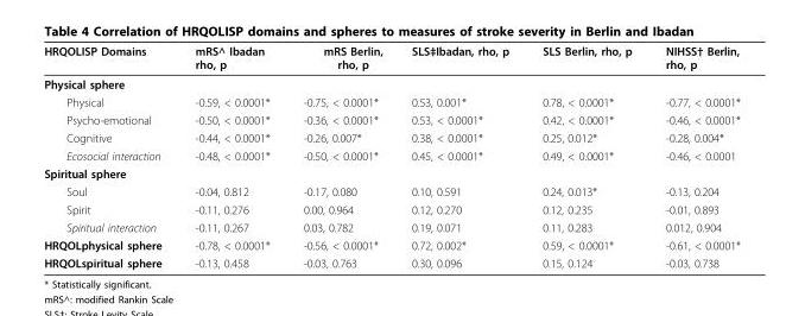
<table><thead><tr><td>HRQOLISP Domains</td><td>mRS^ Ibadan rho, p</td><td>mRS Berlin, rho, p</td><td>SLS‡Ibadan, rho, p</td><td>SLS Berlin, rho, p</td><td>NIHSS† Berlin, rho, p</td></tr></thead><tbody><tr><td colspan="6">Physical sphere</td></tr><tr><td>Physical</td><td>-0.59, &lt; 0.0001*</td><td>-0.75, &lt; 0.0001*</td><td>0.53, 0.001*</td><td>0.78, &lt; 0.0001*</td><td>-0.77, &lt; 0.0001*</td></tr><tr><td>Psycho-emotional</td><td>-0.50, &lt; 0.0001*</td><td>-0.36, &lt; 0.0001*</td><td>0.53, &lt; 0.0001*</td><td>0.42, &lt; 0.0001*</td><td>-0.46, &lt; 0.0001*</td></tr><tr><td>Cognitive</td><td>-0.44, &lt; 0.0001*</td><td>-0.26, 0.007*</td><td>0.38, &lt; 0.0001*</td><td>0.25, 0.012*</td><td>-0.28, 0.004*</td></tr><tr><td>Ecosocial interaction</td><td>-0.48, &lt; 0.0001*</td><td>-0.50, &lt; 0.0001*</td><td>0.45, &lt; 0.0001*</td><td>0.49, &lt; 0.0001*</td><td>-0.46, &lt; 0.0001</td></tr><tr><td colspan="6">Spiritual sphere</td></tr><tr><td>Soul</td><td>-0.04, 0.812</td><td>-0.17, 0.080</td><td>0.10, 0.591</td><td>0.24, 0.013*</td><td>-0.13, 0.204</td></tr><tr><td>Spirit</td><td>-0.11, 0.276</td><td>0.00, 0.964</td><td>0.12, 0.270</td><td>0.12, 0.235</td><td>-0.01, 0.893</td></tr><tr><td>Spiritual interaction</td><td>-0.11, 0.267</td><td>0.03, 0.782</td><td>0.19, 0.071</td><td>0.11, 0.283</td><td>0.012, 0.904</td></tr><tr><td>HRQOLphysical sphere</td><td>-0.78, &lt; 0.0001*</td><td>-0.56, &lt; 0.0001*</td><td>0.72, 0.002*</td><td>0.59, &lt; 0.0001*</td><td>-0.61, &lt; 0.0001*</td></tr><tr><td>HRQOLspiritual sphere</td><td>-0.13, 0.458</td><td>-0.03, 0.763</td><td>0.30, 0.096</td><td>0.15, 0.124</td><td>-0.03, 0.738</td></tr></tbody></table>